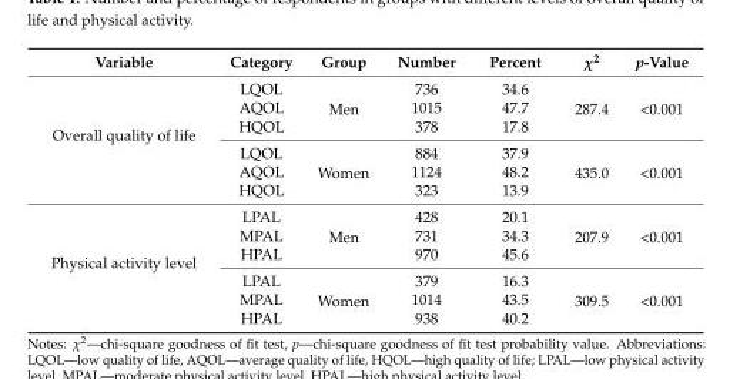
<table><thead><tr><td>Variable</td><td>Category</td><td>Group</td><td>Number</td><td>Percent</td><td>χ<sup>2</sup></td><td>p-Value</td></tr></thead><tbody><tr><td rowspan="6">Overall quality of life</td><td>LQOL</td><td rowspan="3">Men</td><td>736</td><td>34.6</td><td rowspan="3">287.4</td><td rowspan="3">&lt;0.001</td></tr><tr><td>AQOL</td><td>1015</td><td>47.7</td></tr><tr><td>HQOL</td><td>378</td><td>17.8</td></tr><tr><td>LQOL</td><td rowspan="3">Women</td><td>884</td><td>37.9</td><td rowspan="3">435.0</td><td rowspan="3">&lt;0.001</td></tr><tr><td>AQOL</td><td>1124</td><td>48.2</td></tr><tr><td>HQOL</td><td>323</td><td>13.9</td></tr><tr><td rowspan="6">Physical activity level</td><td>LPAL</td><td rowspan="3">Men</td><td>428</td><td>20.1</td><td rowspan="3">207.9</td><td rowspan="3">&lt;0.001</td></tr><tr><td>MPAL</td><td>731</td><td>34.3</td></tr><tr><td>HPAL</td><td>970</td><td>45.6</td></tr><tr><td>LPAL</td><td rowspan="3">Women</td><td>379</td><td>16.3</td><td rowspan="3">309.5</td><td rowspan="3">&lt;0.001</td></tr><tr><td>MPAL</td><td>1014</td><td>43.5</td></tr><tr><td>HPAL</td><td>938</td><td>40.2</td></tr></tbody></table>